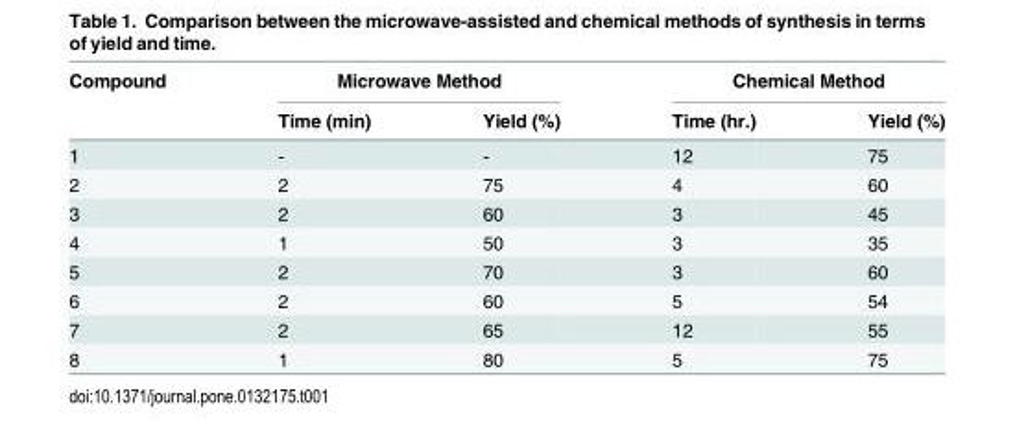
<table><thead><tr><td rowspan="2">Compound</td><td colspan="2">Microwave Method</td><td colspan="2">Chemical Method</td></tr><tr><td>Time (min)</td><td>Yield (%)</td><td>Time (hr.)</td><td>Yield (%)</td></tr></thead><tbody><tr><td>1</td><td>-</td><td>-</td><td>12</td><td>75</td></tr><tr><td>2</td><td>2</td><td>75</td><td>4</td><td>60</td></tr><tr><td>3</td><td>2</td><td>60</td><td>3</td><td>45</td></tr><tr><td>4</td><td>1</td><td>50</td><td>3</td><td>35</td></tr><tr><td>5</td><td>2</td><td>70</td><td>3</td><td>60</td></tr><tr><td>6</td><td>2</td><td>60</td><td>5</td><td>54</td></tr><tr><td>7</td><td>2</td><td>65</td><td>12</td><td>55</td></tr><tr><td>8</td><td>1</td><td>80</td><td>5</td><td>75</td></tr></tbody></table>